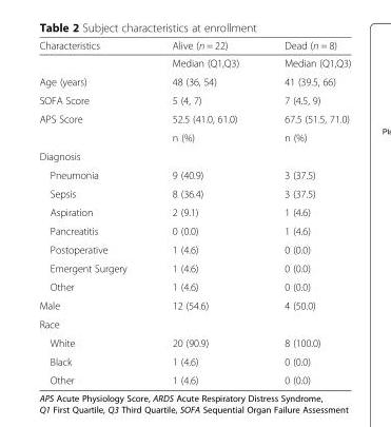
<table><thead><tr><td>Characteristics</td><td>Alive (n = 22)</td><td>Dead (n = 8)</td></tr></thead><tbody><tr><td></td><td>Median (Q1,Q3)</td><td>Median (Q1,Q3)</td></tr><tr><td>Age (years)</td><td>48 (36, 54)</td><td>41 (39.5, 66)</td></tr><tr><td>SOFA Score</td><td>5 (4, 7)</td><td>7 (4.5, 9)</td></tr><tr><td rowspan="2">APS Score</td><td>52.5 (41.0, 61.0)</td><td>67.5 (51.5, 71.0)</td></tr><tr><td>n (%)</td><td>n (%)</td></tr><tr><td colspan="3">Diagnosis</td></tr><tr><td>Pneumonia</td><td>9 (40.9)</td><td>3 (37.5)</td></tr><tr><td>Sepsis</td><td>8 (36.4)</td><td>3 (37.5)</td></tr><tr><td>Aspiration</td><td>2 (9.1)</td><td>1 (4.6)</td></tr><tr><td>Pancreatitis</td><td>0 (0.0)</td><td>1 (4.6)</td></tr><tr><td>Postoperative</td><td>1 (4.6)</td><td>0 (0.0)</td></tr><tr><td>Emergent Surgery</td><td>1 (4.6)</td><td>0 (0.0)</td></tr><tr><td>Other</td><td>1 (4.6)</td><td>0 (0.0)</td></tr><tr><td>Male</td><td>12 (54.6)</td><td>4 (50.0)</td></tr><tr><td colspan="3">Race</td></tr><tr><td>White</td><td>20 (90.9)</td><td>8 (100.0)</td></tr><tr><td>Black</td><td>1 (4.6)</td><td>0 (0.0)</td></tr><tr><td>Other</td><td>1 (4.6)</td><td>0 (0.0)</td></tr></tbody></table>